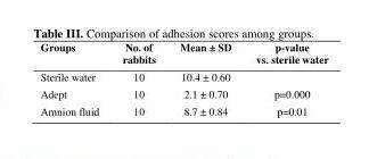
<table><thead><tr><td>Groups</td><td>No. of rabbits</td><td>Mean ± SD</td><td>p-value vs. sterile water</td></tr></thead><tbody><tr><td>Sterile water</td><td>10</td><td>10.4 ± 0.60</td><td></td></tr><tr><td>Adept</td><td>10</td><td>2.1 ± 0.70</td><td>p=0.000</td></tr><tr><td>Amnion fluid</td><td>10</td><td>8.7 ± 0.84</td><td>p=0.01</td></tr></tbody></table>